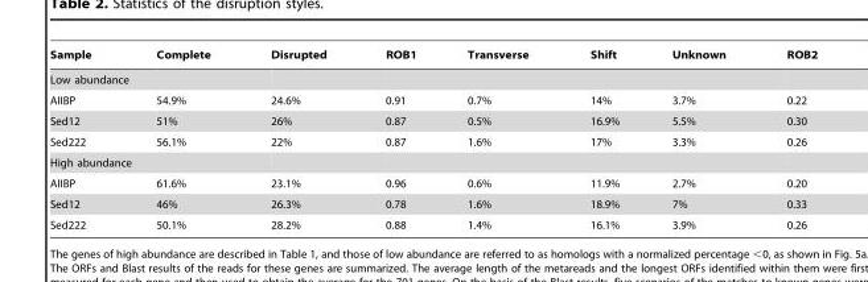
<table><thead><tr><td>Sample</td><td>Complete</td><td>Disrupted</td><td>ROB1</td><td>Transverse</td><td>Shift</td><td>Unknown</td><td>ROB2</td></tr></thead><tbody><tr><td colspan="8">Low abundance</td></tr><tr><td>AIIBP</td><td>54.9%</td><td>24.6%</td><td>0.91</td><td>0.7%</td><td>14%</td><td>3.7%</td><td>0.22</td></tr><tr><td>Sed12</td><td>51%</td><td>26%</td><td>0.87</td><td>0.5%</td><td>16.9%</td><td>5.5%</td><td>0.30</td></tr><tr><td>Sed222</td><td>56.1%</td><td>22%</td><td>0.87</td><td>1.6%</td><td>17%</td><td>3.3%</td><td>0.26</td></tr><tr><td colspan="8">High abundance</td></tr><tr><td>AIIBP</td><td>61.6%</td><td>23.1%</td><td>0.96</td><td>0.6%</td><td>11.9%</td><td>2.7%</td><td>0.20</td></tr><tr><td>Sed12</td><td>46%</td><td>26.3%</td><td>0.78</td><td>1.6%</td><td>18.9%</td><td>7%</td><td>0.33</td></tr><tr><td>Sed222</td><td>50.1%</td><td>28.2%</td><td>0.88</td><td>1.4%</td><td>16.1%</td><td>3.9%</td><td>0.26</td></tr></tbody></table>